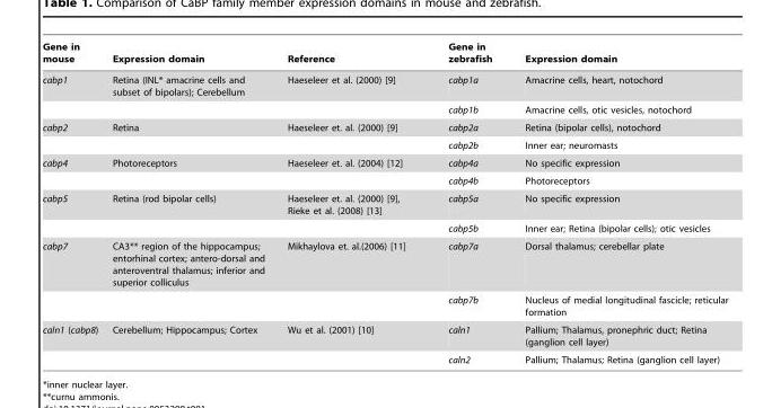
<table><thead><tr><td>Gene in mouse</td><td>Expression domain</td><td>Reference</td><td>Gene in zebrafish</td><td>Expression domain</td></tr></thead><tbody><tr><td rowspan="2">cabp1</td><td>Retina (INL* amacrine cells and subset of bipolars); Cerebellum</td><td>Haeseleer et al. (2000) [9]</td><td>cabp1a</td><td>Amacrine cells, heart, notochord</td></tr><tr><td></td><td></td><td>cabp1b</td><td>Amacrine cells, otic vesicles, notochord</td></tr><tr><td rowspan="2">cabp2</td><td>Retina</td><td>Haeseleer et. al. (2000) [9]</td><td>cabp2a</td><td>Retina (bipolar cells), notochord</td></tr><tr><td></td><td></td><td>cabp2b</td><td>Inner ear; neuromasts</td></tr><tr><td rowspan="2">cabp4</td><td>Photoreceptors</td><td>Haeseleer et. al. (2004) [12]</td><td>cabp4a</td><td>No specific expression</td></tr><tr><td></td><td></td><td>cabp4b</td><td>Photoreceptors</td></tr><tr><td rowspan="2">cabp5</td><td>Retina (rod bipolar cells)</td><td>Haeseleer et. al. (2000) [9], Rieke et al. (2008) [13]</td><td>cabp5a</td><td>No specific expression</td></tr><tr><td></td><td></td><td>cabp5b</td><td>Inner ear; Retina (bipolar cells); otic vesicles</td></tr><tr><td rowspan="2">cabp7</td><td>CA3** region of the hippocampus; entorhinal cortex; antero-dorsal and anteroventral thalamus; inferior and superior colliculus</td><td>Mikhaylova et. al.(2006) [11]</td><td>cabp7a</td><td>Dorsal thalamus; cerebellar plate</td></tr><tr><td></td><td></td><td>cabp7b</td><td>Nucleus of medial longitudinal fascicle; reticular formation</td></tr><tr><td rowspan="2">caln1 (cabp8)</td><td>Cerebellum; Hippocampus; Cortex</td><td>Wu et al. (2001) [10]</td><td>caln1</td><td>Pallium; Thalamus, pronephric duct; Retina (ganglion cell layer)</td></tr><tr><td></td><td></td><td>caln2</td><td>Pallium; Thalamus; Retina (ganglion cell layer)</td></tr></tbody></table>